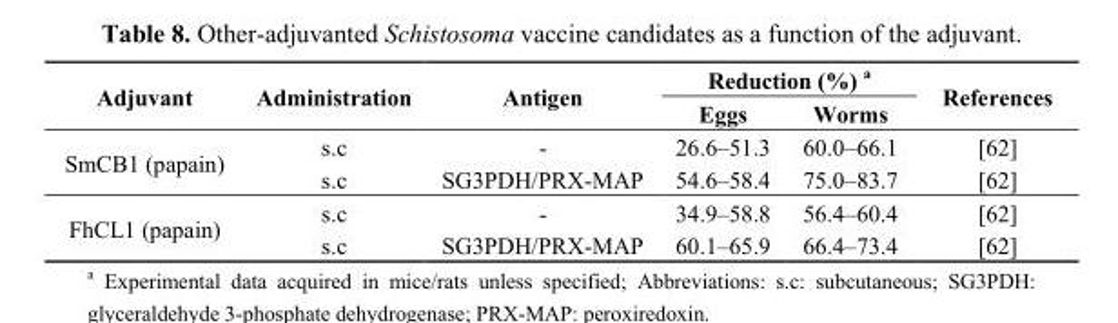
<table><thead><tr><td rowspan="2">Adjuvant</td><td rowspan="2">Administration</td><td rowspan="2">Antigen</td><td colspan="2">Reduction (%) <sup>a</sup></td><td rowspan="2">References</td></tr><tr><td>Eggs</td><td>Worms</td></tr></thead><tbody><tr><td rowspan="2">SmCB1 (papain)</td><td>s.c</td><td>-</td><td>26.6–51.3</td><td>60.0–66.1</td><td>[62]</td></tr><tr><td>s.c</td><td>SG3PDH/PRX-MAP</td><td>54.6–58.4</td><td>75.0–83.7</td><td>[62]</td></tr><tr><td rowspan="2">FhCL1 (papain)</td><td>s.c</td><td>-</td><td>34.9–58.8</td><td>56.4–60.4</td><td>[62]</td></tr><tr><td>s.c</td><td>SG3PDH/PRX-MAP</td><td>60.1–65.9</td><td>66.4–73.4</td><td>[62]</td></tr></tbody></table>